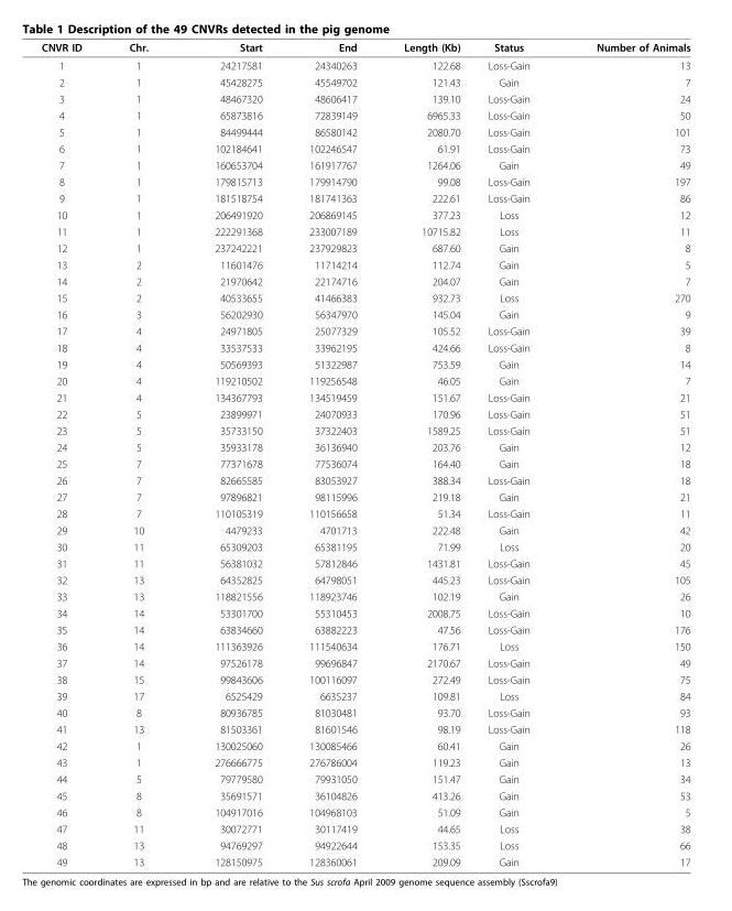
<table><thead><tr><td>CNVR ID</td><td>Chr.</td><td>Start</td><td>End</td><td>Length (Kb)</td><td>Status</td><td>Number of Animals</td></tr></thead><tbody><tr><td>1</td><td>1</td><td>24217581</td><td>24340263</td><td>122.68</td><td>Loss-Gain</td><td>13</td></tr><tr><td>2</td><td>1</td><td>45428275</td><td>45549702</td><td>121.43</td><td>Gain</td><td>7</td></tr><tr><td>3</td><td>1</td><td>48467320</td><td>48606417</td><td>139.10</td><td>Loss-Gain</td><td>24</td></tr><tr><td>4</td><td>1</td><td>65873816</td><td>72839149</td><td>6965.33</td><td>Loss-Gain</td><td>50</td></tr><tr><td>5</td><td>1</td><td>84499444</td><td>86580142</td><td>2080.70</td><td>Loss-Gain</td><td>101</td></tr><tr><td>6</td><td>1</td><td>102184641</td><td>102246547</td><td>61.91</td><td>Loss-Gain</td><td>73</td></tr><tr><td>7</td><td>1</td><td>160653704</td><td>161917767</td><td>1264.06</td><td>Gain</td><td>49</td></tr><tr><td>8</td><td>1</td><td>179815713</td><td>179914790</td><td>99.08</td><td>Loss-Gain</td><td>197</td></tr><tr><td>9</td><td>1</td><td>181518754</td><td>181741363</td><td>222.61</td><td>Loss-Gain</td><td>86</td></tr><tr><td>10</td><td>1</td><td>206491920</td><td>206869145</td><td>377.23</td><td>Loss</td><td>12</td></tr><tr><td>11</td><td>1</td><td>222291368</td><td>233007189</td><td>10715.82</td><td>Loss</td><td>11</td></tr><tr><td>12</td><td>1</td><td>237242221</td><td>237929823</td><td>687.60</td><td>Gain</td><td>8</td></tr><tr><td>13</td><td>2</td><td>11601476</td><td>11714214</td><td>112.74</td><td>Gain</td><td>5</td></tr><tr><td>14</td><td>2</td><td>21970642</td><td>22174716</td><td>204.07</td><td>Gain</td><td>7</td></tr><tr><td>15</td><td>2</td><td>40533655</td><td>41466383</td><td>932.73</td><td>Loss</td><td>270</td></tr><tr><td>16</td><td>3</td><td>56202930</td><td>56347970</td><td>145.04</td><td>Gain</td><td>9</td></tr><tr><td>17</td><td>4</td><td>24971805</td><td>25077329</td><td>105.52</td><td>Loss-Gain</td><td>39</td></tr><tr><td>18</td><td>4</td><td>33537533</td><td>33962195</td><td>424.66</td><td>Loss-Gain</td><td>8</td></tr><tr><td>19</td><td>4</td><td>50569393</td><td>51322987</td><td>753.59</td><td>Gain</td><td>14</td></tr><tr><td>20</td><td>4</td><td>119210502</td><td>119256548</td><td>46.05</td><td>Gain</td><td>7</td></tr><tr><td>21</td><td>4</td><td>134367793</td><td>134519459</td><td>151.67</td><td>Loss-Gain</td><td>21</td></tr><tr><td>22</td><td>5</td><td>23899971</td><td>24070933</td><td>170.96</td><td>Loss-Gain</td><td>51</td></tr><tr><td>23</td><td>5</td><td>35733150</td><td>37322403</td><td>1589.25</td><td>Loss-Gain</td><td>51</td></tr><tr><td>24</td><td>5</td><td>35933178</td><td>36136940</td><td>203.76</td><td>Gain</td><td>12</td></tr><tr><td>25</td><td>7</td><td>77371678</td><td>77536074</td><td>164.40</td><td>Gain</td><td>18</td></tr><tr><td>26</td><td>7</td><td>82665585</td><td>83053927</td><td>388.34</td><td>Loss-Gain</td><td>18</td></tr><tr><td>27</td><td>7</td><td>97896821</td><td>98115996</td><td>219.18</td><td>Gain</td><td>21</td></tr><tr><td>28</td><td>7</td><td>110105319</td><td>110156658</td><td>51.34</td><td>Loss-Gain</td><td>11</td></tr><tr><td>29</td><td>10</td><td>4479233</td><td>4701713</td><td>222.48</td><td>Gain</td><td>42</td></tr><tr><td>30</td><td>11</td><td>65309203</td><td>65381195</td><td>71.99</td><td>Loss</td><td>20</td></tr><tr><td>31</td><td>11</td><td>56381032</td><td>57812846</td><td>1431.81</td><td>Loss-Gain</td><td>45</td></tr><tr><td>32</td><td>13</td><td>64352825</td><td>64798051</td><td>445.23</td><td>Loss-Gain</td><td>105</td></tr><tr><td>33</td><td>13</td><td>118821556</td><td>118923746</td><td>102.19</td><td>Gain</td><td>26</td></tr><tr><td>34</td><td>14</td><td>53301700</td><td>55310453</td><td>2008.75</td><td>Loss-Gain</td><td>10</td></tr><tr><td>35</td><td>14</td><td>63834660</td><td>63882223</td><td>47.56</td><td>Loss-Gain</td><td>176</td></tr><tr><td>36</td><td>14</td><td>111363926</td><td>111540634</td><td>176.71</td><td>Loss</td><td>150</td></tr><tr><td>37</td><td>14</td><td>97526178</td><td>99696847</td><td>2170.67</td><td>Loss-Gain</td><td>49</td></tr><tr><td>38</td><td>15</td><td>99843606</td><td>100116097</td><td>272.49</td><td>Loss-Gain</td><td>75</td></tr><tr><td>39</td><td>17</td><td>6525429</td><td>6635237</td><td>109.81</td><td>Loss</td><td>84</td></tr><tr><td>40</td><td>8</td><td>80936785</td><td>81030481</td><td>93.70</td><td>Loss-Gain</td><td>93</td></tr><tr><td>41</td><td>13</td><td>81503361</td><td>81601546</td><td>98.19</td><td>Loss-Gain</td><td>118</td></tr><tr><td>42</td><td>1</td><td>130025060</td><td>130085466</td><td>60.41</td><td>Gain</td><td>26</td></tr><tr><td>43</td><td>1</td><td>276666775</td><td>276786004</td><td>119.23</td><td>Gain</td><td>13</td></tr><tr><td>44</td><td>5</td><td>79779580</td><td>79931050</td><td>151.47</td><td>Gain</td><td>34</td></tr><tr><td>45</td><td>8</td><td>35691571</td><td>36104826</td><td>413.26</td><td>Gain</td><td>53</td></tr><tr><td>46</td><td>8</td><td>104917016</td><td>104968103</td><td>51.09</td><td>Gain</td><td>5</td></tr><tr><td>47</td><td>11</td><td>30072771</td><td>30117419</td><td>44.65</td><td>Loss</td><td>38</td></tr><tr><td>48</td><td>13</td><td>94769297</td><td>94922644</td><td>153.35</td><td>Loss</td><td>66</td></tr><tr><td>49</td><td>13</td><td>128150975</td><td>128360061</td><td>209.09</td><td>Gain</td><td>17</td></tr></tbody></table>